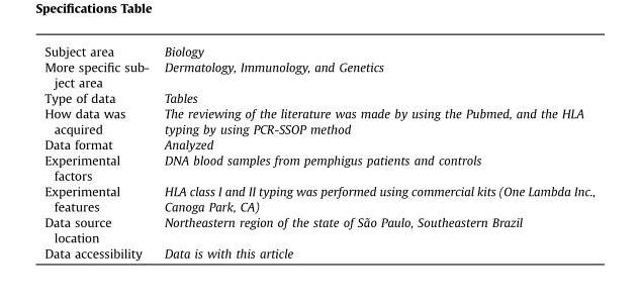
<table><tbody><tr><td>Subject area</td><td>Biology</td></tr><tr><td>More specific sub- ject area</td><td>Dermatology, Immunology, and Genetics</td></tr><tr><td>Type of data</td><td>Tables</td></tr><tr><td>How data was acquired</td><td>The reviewing of the literature was made by using the Pubmed, and the HLA typing by using PCR-SSOP method</td></tr><tr><td>Data format</td><td>Analyzed</td></tr><tr><td>Experimental factors</td><td>DNA blood samples from pemphigus patients and controls</td></tr><tr><td>Experimental features</td><td>HLA class I and II typing was performed using commercial kits (One Lambda Inc., Canoga Park, CA)</td></tr><tr><td>Data source location</td><td>Northeastern region of the state of São Paulo, Southeastern Brazil</td></tr><tr><td>Data accessibility</td><td>Data is with this article</td></tr></tbody></table>